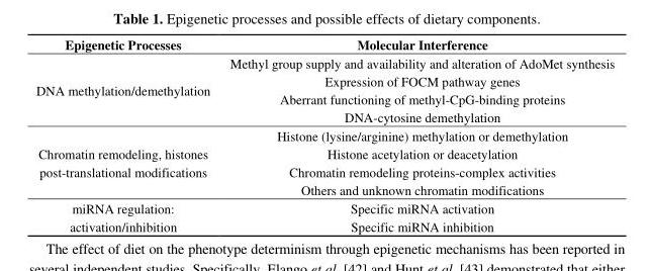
<table><thead><tr><td>Epigenetic Processes</td><td>Molecular Interference</td></tr></thead><tbody><tr><td rowspan="4">DNA methylation/demethylation</td><td>Methyl group supply and availability and alteration of AdoMet synthesis</td></tr><tr><td>Expression of FOCM pathway genes</td></tr><tr><td>Aberrant functioning of methyl-CpG-binding proteins</td></tr><tr><td>DNA-cytosine demethylation</td></tr><tr><td rowspan="4">Chromatin remodeling, histones post-translational modifications</td><td>Histone (lysine/arginine) methylation or demethylation</td></tr><tr><td>Histone acetylation or deacetylation</td></tr><tr><td>Chromatin remodeling proteins-complex activities</td></tr><tr><td>Others and unknown chromatin modifications</td></tr><tr><td rowspan="2">miRNA regulation: activation/inhibition</td><td>Specific miRNA activation</td></tr><tr><td>Specific miRNA inhibition</td></tr></tbody></table>